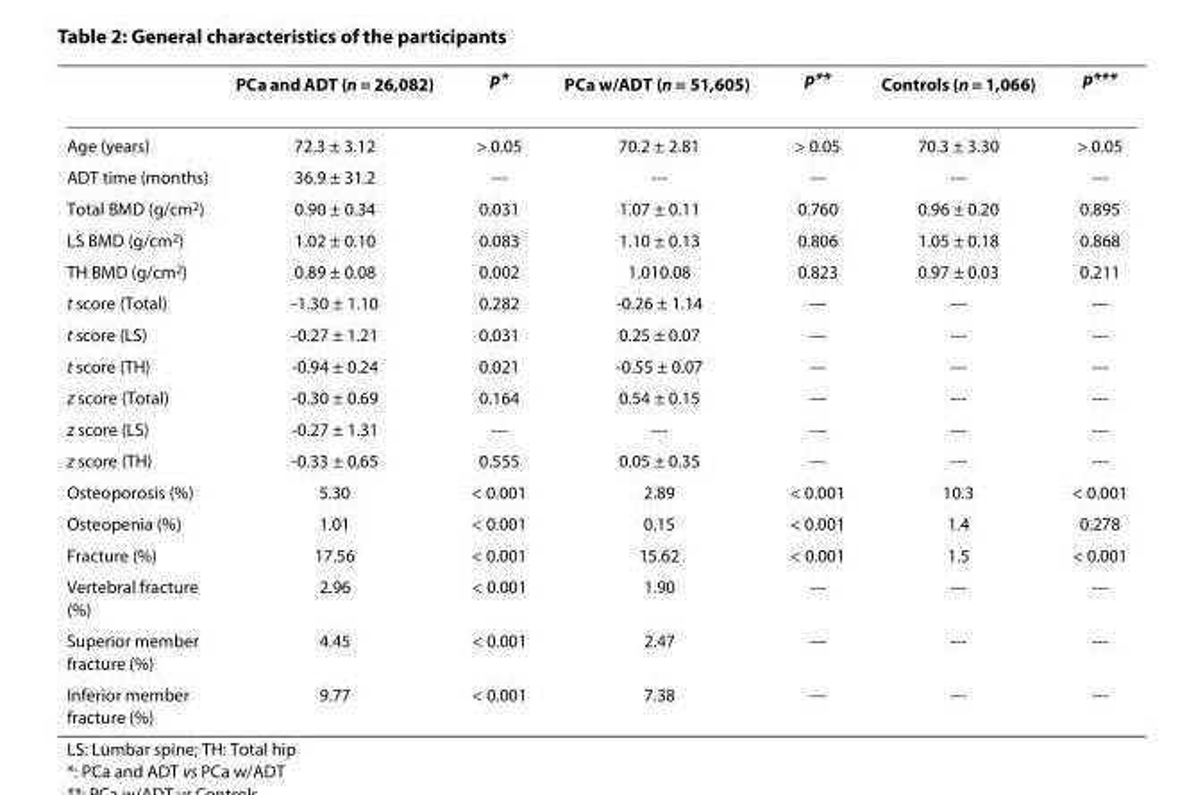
<table><thead><tr><td></td><td>PCa and ADT (n = 26,082)</td><td>p*</td><td>PCa w/ADT (n = 51,605)</td><td>p**</td><td>Controls (n = 1,066)</td><td>p***</td></tr></thead><tbody><tr><td>Age (years)</td><td>72.3 ± 3.12</td><td>&gt; 0.05</td><td>70.2 ± 2.81</td><td>&gt; 0.05</td><td>70.3 ± 3.30</td><td>&gt; 0.05</td></tr><tr><td>ADT time (months)</td><td>36.9 ± 31.2</td><td>---</td><td>---</td><td>---</td><td>---</td><td>---</td></tr><tr><td>Total BMD (g/cm<sup>2</sup>)</td><td>0.90 ± 0.34</td><td>0.031</td><td>1.07 ± 0.11</td><td>0.760</td><td>0.96 ± 0.20</td><td>0.895</td></tr><tr><td>LS BMD (g/cm<sup>2</sup>)</td><td>1.02 ± 0.10</td><td>0.083</td><td>1.10 ± 0.13</td><td>0.806</td><td>1.05 ± 0.18</td><td>0.868</td></tr><tr><td>TH BMD (g/cm<sup>2</sup>)</td><td>0.89 ± 0.08</td><td>0.002</td><td>1.010.08</td><td>0.823</td><td>0.97 ± 0.03</td><td>0.211</td></tr><tr><td>t score (Total)</td><td>-1.30 ± 1.10</td><td>0.282</td><td>-0.26 ± 1.14</td><td>---</td><td>---</td><td>---</td></tr><tr><td>t score (LS)</td><td>-0.27 ± 1.21</td><td>0.031</td><td>0.25 ± 0.07</td><td>---</td><td>---</td><td>---</td></tr><tr><td>t score (TH)</td><td>-0.94 ± 0.24</td><td>0.021</td><td>-0.55 ± 0.07</td><td>---</td><td>---</td><td>---</td></tr><tr><td>z score (Total)</td><td>-0.30 ± 0.69</td><td>0.164</td><td>0.54 ± 0.15</td><td>---</td><td>---</td><td>---</td></tr><tr><td>z score (LS)</td><td>-0.27 ± 1.31</td><td>---</td><td>---</td><td>---</td><td>---</td><td>---</td></tr><tr><td>z score (TH)</td><td>-0.33 ± 0,65</td><td>0.555</td><td>0.05 ± 0.35</td><td>---</td><td>---</td><td>---</td></tr><tr><td>Osteoporosis (%)</td><td>5.30</td><td>&lt; 0.001</td><td>2.89</td><td>&lt; 0.001</td><td>10.3</td><td>&lt; 0.001</td></tr><tr><td>Osteopenia (%)</td><td>1.01</td><td>&lt; 0.001</td><td>0.15</td><td>&lt; 0.001</td><td>1.4</td><td>0.278</td></tr><tr><td>Fracture (%)</td><td>17.56</td><td>&lt; 0.001</td><td>15.62</td><td>&lt; 0.001</td><td>1.5</td><td>&lt; 0.001</td></tr><tr><td>Vertebral fracture (%)</td><td>2.96</td><td>&lt; 0.001</td><td>1.90</td><td>---</td><td>---</td><td>---</td></tr><tr><td>Superior member fracture (%)</td><td>4.45</td><td>&lt; 0.001</td><td>2.47</td><td>---</td><td>---</td><td>---</td></tr><tr><td>Inferior member fracture (%)</td><td>9.77</td><td>&lt; 0.001</td><td>7.38</td><td>---</td><td>---</td><td>---</td></tr></tbody></table>